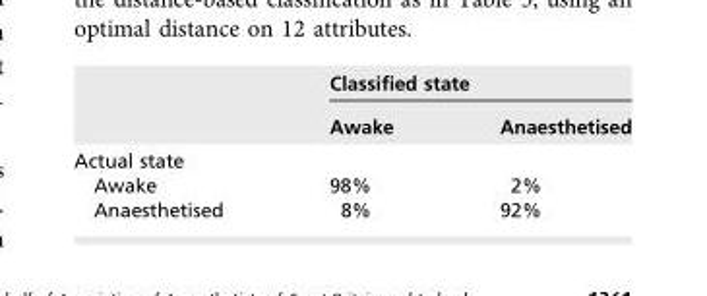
<table><thead><tr><td rowspan="2"></td><td colspan="2">Classified state</td></tr><tr><td>Awake</td><td>Anaesthetised</td></tr></thead><tbody><tr><td colspan="3">Actual state</td></tr><tr><td>Awake</td><td>98%</td><td>2%</td></tr><tr><td>Anaesthetised</td><td>8%</td><td>92%</td></tr></tbody></table>